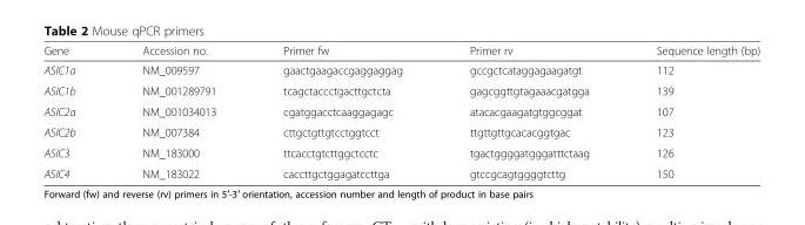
<table><thead><tr><td>Gene</td><td>Accession no.</td><td>Primer fw</td><td>Primer rv</td><td>Sequence length (bp)</td></tr></thead><tbody><tr><td>ASIC1a</td><td>NM_009597</td><td>gaactgaagaccgaggaggag</td><td>gccgctcataggagaagatgt</td><td>112</td></tr><tr><td>ASIC1b</td><td>NM_001289791</td><td>tcagctaccctgacttgctcta</td><td>gagcggttgtagaaacgatgga</td><td>139</td></tr><tr><td>ASIC2a</td><td>NM_001034013</td><td>cgatggacctcaaggagagc</td><td>atacacgaagatgtggcggat</td><td>107</td></tr><tr><td>ASIC2b</td><td>NM_007384</td><td>cttgctgttgtcctggtcct</td><td>ttgttgttgcacacggtgac</td><td>123</td></tr><tr><td>ASIC3</td><td>NM_183000</td><td>ttcacctgtcttggctcctc</td><td>tgactggggatgggatttctaag</td><td>126</td></tr><tr><td>ASIC4</td><td>NM_183022</td><td>caccttgctggagatccttga</td><td>gtccgcagtggggtcttg</td><td>150</td></tr></tbody></table>